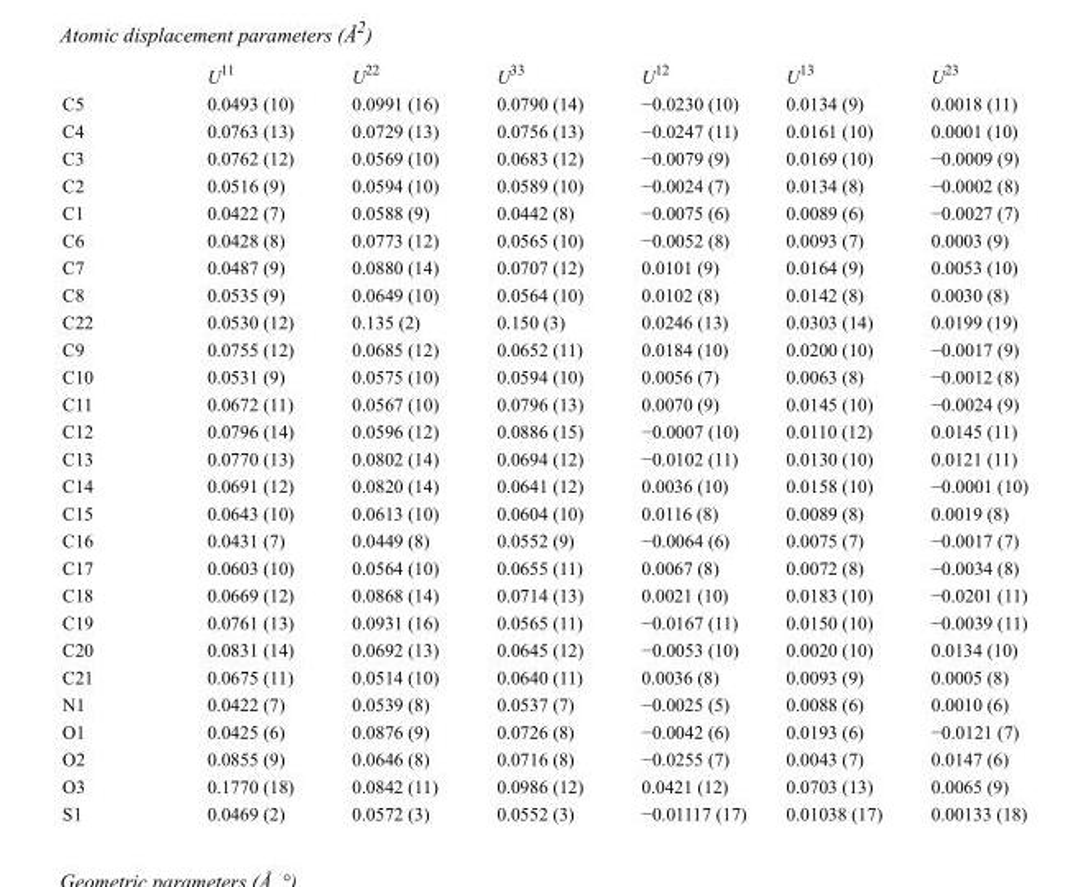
<table><thead><tr><td></td><td>U<sup>11</sup></td><td>U<sup>22</sup></td><td>U<sup>33</sup></td><td>U<sup>12</sup></td><td>U<sup>13</sup></td><td>U<sup>23</sup></td></tr></thead><tbody><tr><td>C5</td><td>0.0493 (10)</td><td>0.0991 (16)</td><td>0.0790 (14)</td><td>−0.0230 (10)</td><td>0.0134 (9)</td><td>0.0018 (11)</td></tr><tr><td>C4</td><td>0.0763 (13)</td><td>0.0729 (13)</td><td>0.0756 (13)</td><td>−0.0247 (11)</td><td>0.0161 (10)</td><td>0.0001 (10)</td></tr><tr><td>C3</td><td>0.0762 (12)</td><td>0.0569 (10)</td><td>0.0683 (12)</td><td>−0.0079 (9)</td><td>0.0169 (10)</td><td>−0.0009 (9)</td></tr><tr><td>C2</td><td>0.0516 (9)</td><td>0.0594 (10)</td><td>0.0589 (10)</td><td>−0.0024 (7)</td><td>0.0134 (8)</td><td>−0.0002 (8)</td></tr><tr><td>C1</td><td>0.0422 (7)</td><td>0.0588 (9)</td><td>0.0442 (8)</td><td>−0.0075 (6)</td><td>0.0089 (6)</td><td>−0.0027 (7)</td></tr><tr><td>C6</td><td>0.0428 (8)</td><td>0.0773 (12)</td><td>0.0565 (10)</td><td>−0.0052 (8)</td><td>0.0093 (7)</td><td>0.0003 (9)</td></tr><tr><td>C7</td><td>0.0487 (9)</td><td>0.0880 (14)</td><td>0.0707 (12)</td><td>0.0101 (9)</td><td>0.0164 (9)</td><td>0.0053 (10)</td></tr><tr><td>C8</td><td>0.0535 (9)</td><td>0.0649 (10)</td><td>0.0564 (10)</td><td>0.0102 (8)</td><td>0.0142 (8)</td><td>0.0030 (8)</td></tr><tr><td>C22</td><td>0.0530 (12)</td><td>0.135 (2)</td><td>0.150 (3)</td><td>0.0246 (13)</td><td>0.0303 (14)</td><td>0.0199 (19)</td></tr><tr><td>C9</td><td>0.0755 (12)</td><td>0.0685 (12)</td><td>0.0652 (11)</td><td>0.0184 (10)</td><td>0.0200 (10)</td><td>−0.0017 (9)</td></tr><tr><td>C10</td><td>0.0531 (9)</td><td>0.0575 (10)</td><td>0.0594 (10)</td><td>0.0056 (7)</td><td>0.0063 (8)</td><td>−0.0012 (8)</td></tr><tr><td>C11</td><td>0.0672 (11)</td><td>0.0567 (10)</td><td>0.0796 (13)</td><td>0.0070 (9)</td><td>0.0145 (10)</td><td>−0.0024 (9)</td></tr><tr><td>C12</td><td>0.0796 (14)</td><td>0.0596 (12)</td><td>0.0886 (15)</td><td>−0.0007 (10)</td><td>0.0110 (12)</td><td>0.0145 (11)</td></tr><tr><td>C13</td><td>0.0770 (13)</td><td>0.0802 (14)</td><td>0.0694 (12)</td><td>−0.0102 (11)</td><td>0.0130 (10)</td><td>0.0121 (11)</td></tr><tr><td>C14</td><td>0.0691 (12)</td><td>0.0820 (14)</td><td>0.0641 (12)</td><td>0.0036 (10)</td><td>0.0158 (10)</td><td>−0.0001 (10)</td></tr><tr><td>C15</td><td>0.0643 (10)</td><td>0.0613 (10)</td><td>0.0604 (10)</td><td>0.0116 (8)</td><td>0.0089 (8)</td><td>0.0019 (8)</td></tr><tr><td>C16</td><td>0.0431 (7)</td><td>0.0449 (8)</td><td>0.0552 (9)</td><td>−0.0064 (6)</td><td>0.0075 (7)</td><td>−0.0017 (7)</td></tr><tr><td>C17</td><td>0.0603 (10)</td><td>0.0564 (10)</td><td>0.0655 (11)</td><td>0.0067 (8)</td><td>0.0072 (8)</td><td>−0.0034 (8)</td></tr><tr><td>C18</td><td>0.0669 (12)</td><td>0.0868 (14)</td><td>0.0714 (13)</td><td>0.0021 (10)</td><td>0.0183 (10)</td><td>−0.0201 (11)</td></tr><tr><td>C19</td><td>0.0761 (13)</td><td>0.0931 (16)</td><td>0.0565 (11)</td><td>−0.0167 (11)</td><td>0.0150 (10)</td><td>−0.0039 (11)</td></tr><tr><td>C20</td><td>0.0831 (14)</td><td>0.0692 (13)</td><td>0.0645 (12)</td><td>−0.0053 (10)</td><td>0.0020 (10)</td><td>0.0134 (10)</td></tr><tr><td>C21</td><td>0.0675 (11)</td><td>0.0514 (10)</td><td>0.0640 (11)</td><td>0.0036 (8)</td><td>0.0093 (9)</td><td>0.0005 (8)</td></tr><tr><td>N1</td><td>0.0422 (7)</td><td>0.0539 (8)</td><td>0.0537 (7)</td><td>−0.0025 (5)</td><td>0.0088 (6)</td><td>0.0010 (6)</td></tr><tr><td>O1</td><td>0.0425 (6)</td><td>0.0876 (9)</td><td>0.0726 (8)</td><td>−0.0042 (6)</td><td>0.0193 (6)</td><td>−0.0121 (7)</td></tr><tr><td>O2</td><td>0.0855 (9)</td><td>0.0646 (8)</td><td>0.0716 (8)</td><td>−0.0255 (7)</td><td>0.0043 (7)</td><td>0.0147 (6)</td></tr><tr><td>O3</td><td>0.1770 (18)</td><td>0.0842 (11)</td><td>0.0986 (12)</td><td>0.0421 (12)</td><td>0.0703 (13)</td><td>0.0065 (9)</td></tr><tr><td>S1</td><td>0.0469 (2)</td><td>0.0572 (3)</td><td>0.0552 (3)</td><td>−0.01117 (17)</td><td>0.01038 (17)</td><td>0.00133 (18)</td></tr></tbody></table>